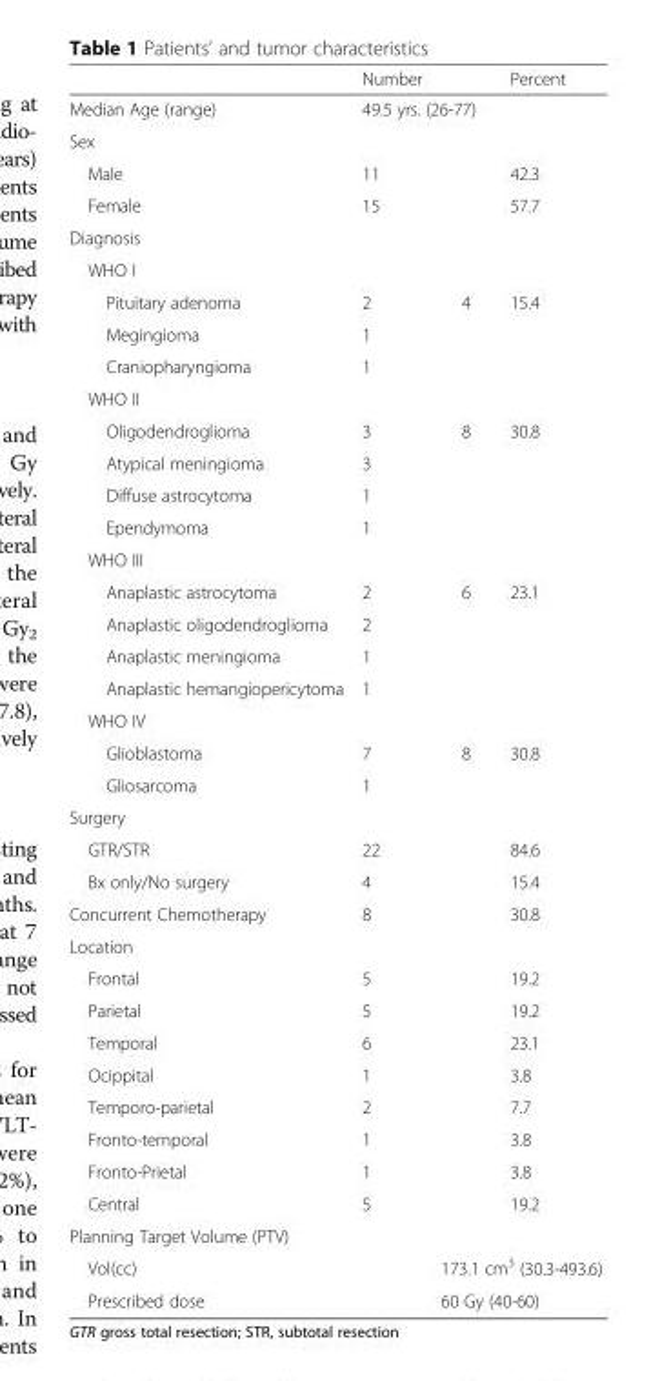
<table><thead><tr><td></td><td>Number</td><td></td><td>Percent</td></tr></thead><tbody><tr><td>Median Age (range)</td><td colspan="3">49.5 yrs. (26-77)</td></tr><tr><td colspan="4">Sex</td></tr><tr><td>Male</td><td>11</td><td></td><td>42.3</td></tr><tr><td>Female</td><td>15</td><td></td><td>57.7</td></tr><tr><td colspan="4">Diagnosis</td></tr><tr><td colspan="4">WHO I</td></tr><tr><td>Pituitary adenoma</td><td>2</td><td rowspan="3">4</td><td rowspan="3">15.4</td></tr><tr><td>Megingioma</td><td>1</td></tr><tr><td>Craniopharyngioma</td><td>1</td></tr><tr><td colspan="4">WHO II</td></tr><tr><td>Oligodendroglioma</td><td>3</td><td rowspan="4">8</td><td rowspan="4">30.8</td></tr><tr><td>Atypical meningioma</td><td>3</td></tr><tr><td>Diffuse astrocytoma</td><td>1</td></tr><tr><td>Ependymoma</td><td>1</td></tr><tr><td colspan="4">WHO III</td></tr><tr><td>Anaplastic astrocytoma</td><td>2</td><td rowspan="4">6</td><td rowspan="4">23.1</td></tr><tr><td>Anaplastic oligodendroglioma</td><td>2</td></tr><tr><td>Anaplastic meningioma</td><td>1</td></tr><tr><td>Anaplastic hemangiopericytoma</td><td>1</td></tr><tr><td colspan="4">WHO IV</td></tr><tr><td>Glioblastoma</td><td>7</td><td rowspan="2">8</td><td rowspan="2">30.8</td></tr><tr><td>Gliosarcoma</td><td>1</td></tr><tr><td colspan="4">Surgery</td></tr><tr><td>GTR/STR</td><td>22</td><td></td><td>84.6</td></tr><tr><td>Bx only/No surgery</td><td>4</td><td></td><td>15.4</td></tr><tr><td>Concurrent Chemotherapy</td><td>8</td><td></td><td>30.8</td></tr><tr><td colspan="4">Location</td></tr><tr><td>Frontal</td><td>5</td><td></td><td>19.2</td></tr><tr><td>Parietal</td><td>5</td><td></td><td>19.2</td></tr><tr><td>Temporal</td><td>6</td><td></td><td>23.1</td></tr><tr><td>Ocippital</td><td>1</td><td></td><td>3.8</td></tr><tr><td>Temporo-parietal</td><td>2</td><td></td><td>7.7</td></tr><tr><td>Fronto-temporal</td><td>1</td><td></td><td>3.8</td></tr><tr><td>Fronto-Prietal</td><td>1</td><td></td><td>3.8</td></tr><tr><td>Central</td><td>5</td><td></td><td>19.2</td></tr><tr><td colspan="4">Planning Target Volume (PTV)</td></tr><tr><td colspan="2">Vol(cc)</td><td colspan="2">173.1 cm<sup>3</sup> (30.3-493.6)</td></tr><tr><td colspan="2">Prescribed dose</td><td colspan="2">60 Gy (40-60)</td></tr></tbody></table>